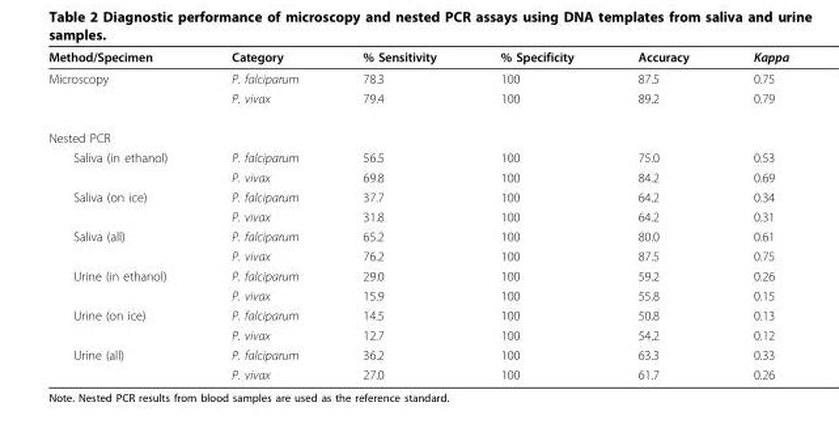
<table><thead><tr><td>Method/Specimen</td><td>Category</td><td>% Sensitivity</td><td>% Specificity</td><td>Accuracy</td><td>Kappa</td></tr></thead><tbody><tr><td rowspan="2">Microscopy</td><td>P. falciparum</td><td>78.3</td><td>100</td><td>87.5</td><td>0.75</td></tr><tr><td>P. vivax</td><td>79.4</td><td>100</td><td>89.2</td><td>0.79</td></tr><tr><td colspan="6">Nested PCR</td></tr><tr><td rowspan="2">Saliva (in ethanol)</td><td>P. falciparum</td><td>56.5</td><td>100</td><td>75.0</td><td>0.53</td></tr><tr><td>P. vivax</td><td>69.8</td><td>100</td><td>84.2</td><td>0.69</td></tr><tr><td rowspan="2">Saliva (on ice)</td><td>P. falciparum</td><td>37.7</td><td>100</td><td>64.2</td><td>0.34</td></tr><tr><td>P. vivax</td><td>31.8</td><td>100</td><td>64.2</td><td>0.31</td></tr><tr><td rowspan="2">Saliva (all)</td><td>P. falciparum</td><td>65.2</td><td>100</td><td>80.0</td><td>0.61</td></tr><tr><td>P. vivax</td><td>76.2</td><td>100</td><td>87.5</td><td>0.75</td></tr><tr><td rowspan="2">Urine (in ethanol)</td><td>P. falciparum</td><td>29.0</td><td>100</td><td>59.2</td><td>0.26</td></tr><tr><td>P. vivax</td><td>15.9</td><td>100</td><td>55.8</td><td>0.15</td></tr><tr><td rowspan="2">Urine (on ice)</td><td>P. falciparum</td><td>14.5</td><td>100</td><td>50.8</td><td>0.13</td></tr><tr><td>P. vivax</td><td>12.7</td><td>100</td><td>54.2</td><td>0.12</td></tr><tr><td rowspan="2">Urine (all)</td><td>P. falciparum</td><td>36.2</td><td>100</td><td>63.3</td><td>0.33</td></tr><tr><td>P. vivax</td><td>27.0</td><td>100</td><td>61.7</td><td>0.26</td></tr></tbody></table>